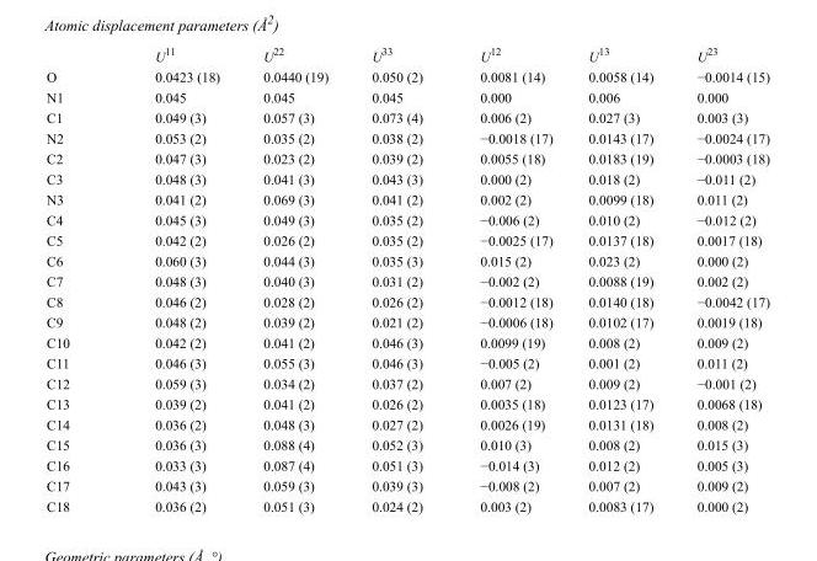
<table><thead><tr><td></td><td>U<sup>11</sup></td><td>U<sup>22</sup></td><td>U<sup>33</sup></td><td>U<sup>12</sup></td><td>U<sup>13</sup></td><td>U<sup>23</sup></td></tr></thead><tbody><tr><td>O</td><td>0.0423 (18)</td><td>0.0440 (19)</td><td>0.050 (2)</td><td>0.0081 (14)</td><td>0.0058 (14)</td><td>−0.0014 (15)</td></tr><tr><td>N1</td><td>0.045</td><td>0.045</td><td>0.045</td><td>0.000</td><td>0.006</td><td>0.000</td></tr><tr><td>C1</td><td>0.049 (3)</td><td>0.057 (3)</td><td>0.073 (4)</td><td>0.006 (2)</td><td>0.027 (3)</td><td>0.003 (3)</td></tr><tr><td>N2</td><td>0.053 (2)</td><td>0.035 (2)</td><td>0.038 (2)</td><td>−0.0018 (17)</td><td>0.0143 (17)</td><td>−0.0024 (17)</td></tr><tr><td>C2</td><td>0.047 (3)</td><td>0.023 (2)</td><td>0.039 (2)</td><td>0.0055 (18)</td><td>0.0183 (19)</td><td>−0.0003 (18)</td></tr><tr><td>C3</td><td>0.048 (3)</td><td>0.041 (3)</td><td>0.043 (3)</td><td>0.000 (2)</td><td>0.018 (2)</td><td>−0.011 (2)</td></tr><tr><td>N3</td><td>0.041 (2)</td><td>0.069 (3)</td><td>0.041 (2)</td><td>0.002 (2)</td><td>0.0099 (18)</td><td>0.011 (2)</td></tr><tr><td>C4</td><td>0.045 (3)</td><td>0.049 (3)</td><td>0.035 (2)</td><td>−0.006 (2)</td><td>0.010 (2)</td><td>−0.012 (2)</td></tr><tr><td>C5</td><td>0.042 (2)</td><td>0.026 (2)</td><td>0.035 (2)</td><td>−0.0025 (17)</td><td>0.0137 (18)</td><td>0.0017 (18)</td></tr><tr><td>C6</td><td>0.060 (3)</td><td>0.044 (3)</td><td>0.035 (3)</td><td>0.015 (2)</td><td>0.023 (2)</td><td>0.000 (2)</td></tr><tr><td>C7</td><td>0.048 (3)</td><td>0.040 (3)</td><td>0.031 (2)</td><td>−0.002 (2)</td><td>0.0088 (19)</td><td>0.002 (2)</td></tr><tr><td>C8</td><td>0.046 (2)</td><td>0.028 (2)</td><td>0.026 (2)</td><td>−0.0012 (18)</td><td>0.0140 (18)</td><td>−0.0042 (17)</td></tr><tr><td>C9</td><td>0.048 (2)</td><td>0.039 (2)</td><td>0.021 (2)</td><td>−0.0006 (18)</td><td>0.0102 (17)</td><td>0.0019 (18)</td></tr><tr><td>C10</td><td>0.042 (2)</td><td>0.041 (2)</td><td>0.046 (3)</td><td>0.0099 (19)</td><td>0.008 (2)</td><td>0.009 (2)</td></tr><tr><td>C11</td><td>0.046 (3)</td><td>0.055 (3)</td><td>0.046 (3)</td><td>−0.005 (2)</td><td>0.001 (2)</td><td>0.011 (2)</td></tr><tr><td>C12</td><td>0.059 (3)</td><td>0.034 (2)</td><td>0.037 (2)</td><td>0.007 (2)</td><td>0.009 (2)</td><td>−0.001 (2)</td></tr><tr><td>C13</td><td>0.039 (2)</td><td>0.041 (2)</td><td>0.026 (2)</td><td>0.0035 (18)</td><td>0.0123 (17)</td><td>0.0068 (18)</td></tr><tr><td>C14</td><td>0.036 (2)</td><td>0.048 (3)</td><td>0.027 (2)</td><td>0.0026 (19)</td><td>0.0131 (18)</td><td>0.008 (2)</td></tr><tr><td>C15</td><td>0.036 (3)</td><td>0.088 (4)</td><td>0.052 (3)</td><td>0.010 (3)</td><td>0.008 (2)</td><td>0.015 (3)</td></tr><tr><td>C16</td><td>0.033 (3)</td><td>0.087 (4)</td><td>0.051 (3)</td><td>−0.014 (3)</td><td>0.012 (2)</td><td>0.005 (3)</td></tr><tr><td>C17</td><td>0.043 (3)</td><td>0.059 (3)</td><td>0.039 (3)</td><td>−0.008 (2)</td><td>0.007 (2)</td><td>0.009 (2)</td></tr><tr><td>C18</td><td>0.036 (2)</td><td>0.051 (3)</td><td>0.024 (2)</td><td>0.003 (2)</td><td>0.0083 (17)</td><td>0.000 (2)</td></tr></tbody></table>